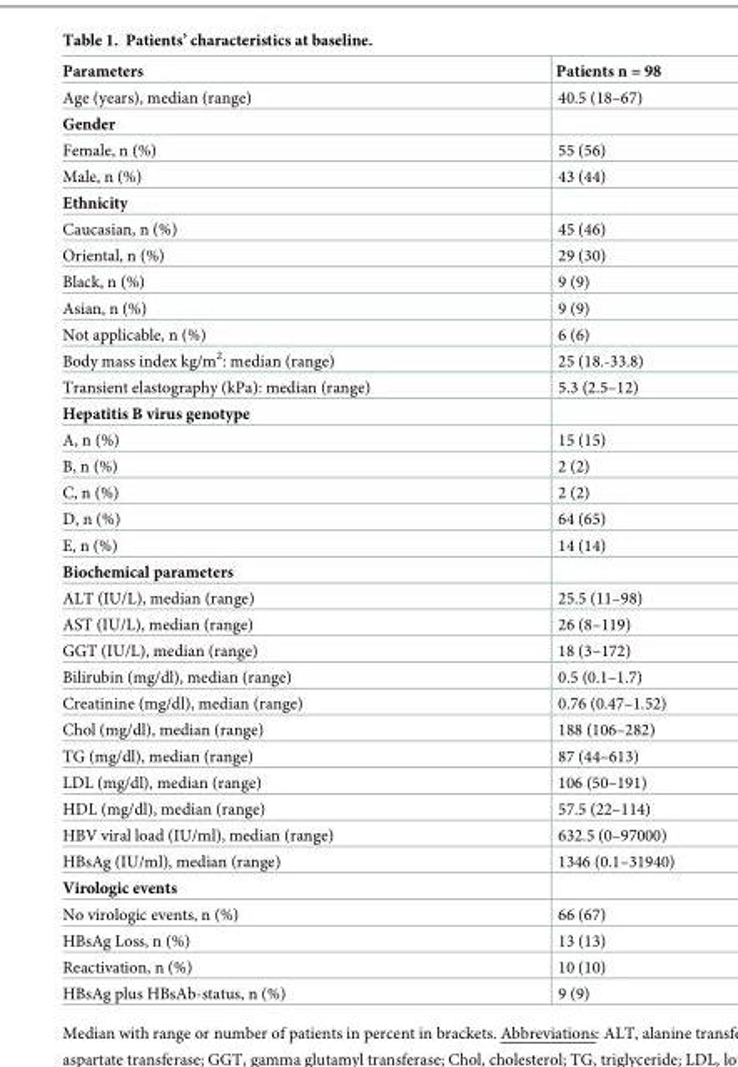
<table><thead><tr><td>Parameters</td><td>Patients n = 98</td></tr></thead><tbody><tr><td>Age (years), median (range)</td><td>40.5 (18–67)</td></tr><tr><td colspan="2">Gender</td></tr><tr><td>Female, n (%)</td><td>55 (56)</td></tr><tr><td>Male, n (%)</td><td>43 (44)</td></tr><tr><td colspan="2">Ethnicity</td></tr><tr><td>Caucasian, n (%)</td><td>45 (46)</td></tr><tr><td>Oriental, n (%)</td><td>29 (30)</td></tr><tr><td>Black, n (%)</td><td>9 (9)</td></tr><tr><td>Asian, n (%)</td><td>9 (9)</td></tr><tr><td>Not applicable, n (%)</td><td>6 (6)</td></tr><tr><td>Body mass index kg/m<sup>2</sup>: median (range)</td><td>25 (18.-33.8)</td></tr><tr><td>Transient elastography (kPa): median (range)</td><td>5.3 (2.5–12)</td></tr><tr><td colspan="2">Hepatitis B virus genotype</td></tr><tr><td>A, n (%)</td><td>15 (15)</td></tr><tr><td>B, n (%)</td><td>2 (2)</td></tr><tr><td>C, n (%)</td><td>2 (2)</td></tr><tr><td>D, n (%)</td><td>64 (65)</td></tr><tr><td>E, n (%)</td><td>14 (14)</td></tr><tr><td colspan="2">Biochemical parameters</td></tr><tr><td>ALT (IU/L), median (range)</td><td>25.5 (11–98)</td></tr><tr><td>AST (IU/L), median (range)</td><td>26 (8–119)</td></tr><tr><td>GGT (IU/L), median (range)</td><td>18 (3–172)</td></tr><tr><td>Bilirubin (mg/dl), median (range)</td><td>0.5 (0.1–1.7)</td></tr><tr><td>Creatinine (mg/dl), median (range)</td><td>0.76 (0.47–1.52)</td></tr><tr><td>Chol (mg/dl), median (range)</td><td>188 (106–282)</td></tr><tr><td>TG (mg/dl), median (range)</td><td>87 (44–613)</td></tr><tr><td>LDL (mg/dl), median (range)</td><td>106 (50–191)</td></tr><tr><td>HDL (mg/dl), median (range)</td><td>57.5 (22–114)</td></tr><tr><td>HBV viral load (IU/ml), median (range)</td><td>632.5 (0–97000)</td></tr><tr><td>HBsAg (IU/ml), median (range)</td><td>1346 (0.1–31940)</td></tr><tr><td colspan="2">Virologic events</td></tr><tr><td>No virologic events, n (%)</td><td>66 (67)</td></tr><tr><td>HBsAg Loss, n (%)</td><td>13 (13)</td></tr><tr><td>Reactivation, n (%)</td><td>10 (10)</td></tr><tr><td>HBsAg plus HBsAb-status, n (%)</td><td>9 (9)</td></tr></tbody></table>